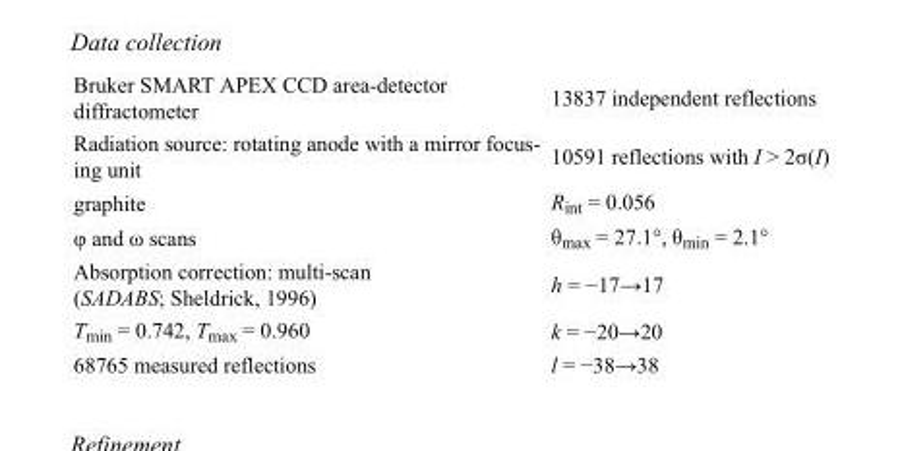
<table><tbody><tr><td>Bruker SMART APEX CCD area-detector diffractometer</td><td>13837 independent reflections</td></tr><tr><td>Radiation source: rotating anode with a mirror focus- ing unit</td><td>10591 reflections with I &gt; 2σ(I)</td></tr><tr><td>graphite</td><td>R<sub>int</sub> = 0.056</td></tr><tr><td>φ and ω scans</td><td>θ<sub>max</sub> = 27.1°, θ<sub>min</sub> = 2.1°</td></tr><tr><td>Absorption correction: multi-scan (SADABS; Sheldrick, 1996)</td><td>h = −17→17</td></tr><tr><td>T<sub>min</sub> = 0.742, T<sub>max</sub> = 0.960</td><td>k = −20→20</td></tr><tr><td>68765 measured reflections</td><td>l = −38→38</td></tr></tbody></table>